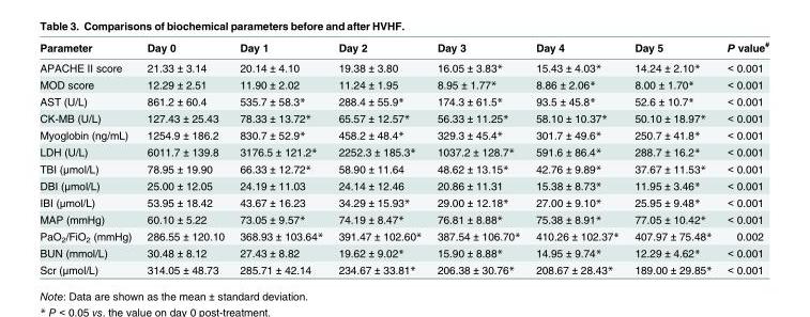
<table><thead><tr><td>Parameter</td><td>Day 0</td><td>Day 1</td><td>Day 2</td><td>Day 3</td><td>Day 4</td><td>Day 5</td><td>P value<sup>#</sup></td></tr></thead><tbody><tr><td>APACHE II score</td><td>21.33 ± 3.14</td><td>20.14 ± 4.10</td><td>19.38 ± 3.80</td><td>16.05 ± 3.83*</td><td>15.43 ± 4.03*</td><td>14.24 ± 2.10*</td><td>&lt; 0.001</td></tr><tr><td>MOD score</td><td>12.29 ± 2.51</td><td>11.90 ± 2.02</td><td>11.24 ± 1.95</td><td>8.95 ± 1.77*</td><td>8.86 ± 2.06*</td><td>8.00 ± 1.70*</td><td>&lt; 0.001</td></tr><tr><td>AST (U/L)</td><td>861.2 ± 60.4</td><td>535.7 ± 58.3*</td><td>288.4 ± 55.9*</td><td>174.3 ± 61.5*</td><td>93.5 ± 45.8*</td><td>52.6 ± 10.7*</td><td>&lt; 0.001</td></tr><tr><td>CK-MB (U/L)</td><td>127.43 ± 25.43</td><td>78.33 ± 13.72*</td><td>65.57 ± 12.57*</td><td>56.33 ± 11.25*</td><td>58.10 ± 10.37*</td><td>50.10 ± 18.97*</td><td>&lt; 0.001</td></tr><tr><td>Myoglobin (ng/mL)</td><td>1254.9 ± 186.2</td><td>830.7 ± 52.9*</td><td>458.2 ± 48.4*</td><td>329.3 ± 45.4*</td><td>301.7 ± 49.6*</td><td>250.7 ± 41.8*</td><td>&lt; 0.001</td></tr><tr><td>LDH (U/L)</td><td>6011.7 ± 139.8</td><td>3176.5 ± 121.2*</td><td>2252.3 ± 185.3*</td><td>1037.2 ± 128.7*</td><td>591.6 ± 86.4*</td><td>288.7 ± 16.2*</td><td>&lt; 0.001</td></tr><tr><td>TBI (μmol/L)</td><td>78.95 ± 19.90</td><td>66.33 ± 12.72*</td><td>58.90 ± 11.64</td><td>48.62 ± 13.15*</td><td>42.76 ± 9.89*</td><td>37.67 ± 11.53*</td><td>&lt; 0.001</td></tr><tr><td>DBI (μmol/L)</td><td>25.00 ± 12.05</td><td>24.19 ± 11.03</td><td>24.14 ± 12.46</td><td>20.86 ± 11.31</td><td>15.38 ± 8.73*</td><td>11.95 ± 3.46*</td><td>&lt; 0.001</td></tr><tr><td>IBI (μmol/L)</td><td>53.95 ± 18.42</td><td>43.67 ± 16.23</td><td>34.29 ± 15.93*</td><td>29.00 ± 12.18*</td><td>27.00 ± 9.10*</td><td>25.95 ± 9.48*</td><td>&lt; 0.001</td></tr><tr><td>MAP (mmHg)</td><td>60.10 ± 5.22</td><td>73.05 ± 9.57*</td><td>74.19 ± 8.47*</td><td>76.81 ± 8.88*</td><td>75.38 ± 8.91*</td><td>77.05 ± 10.42*</td><td>&lt; 0.001</td></tr><tr><td>PaO<sub>2</sub>/FiO<sub>2</sub> (mmHg)</td><td>286.55 ± 120.10</td><td>368.93 ± 103.64*</td><td>391.47 ± 102.60*</td><td>387.54 ± 106.70*</td><td>410.26 ± 102.37*</td><td>407.97 ± 75.48*</td><td>0.002</td></tr><tr><td>BUN (mmol/L)</td><td>30.48 ± 8.12</td><td>27.43 ± 8.82</td><td>19.62 ± 9.02*</td><td>15.90 ± 8.88*</td><td>14.95 ± 9.74*</td><td>12.29 ± 4.62*</td><td>&lt; 0.001</td></tr><tr><td>Scr (μmol/L)</td><td>314.05 ± 48.73</td><td>285.71 ± 42.14</td><td>234.67 ± 33.81*</td><td>206.38 ± 30.76*</td><td>208.67 ± 28.43*</td><td>189.00 ± 29.85*</td><td>&lt; 0.001</td></tr></tbody></table>